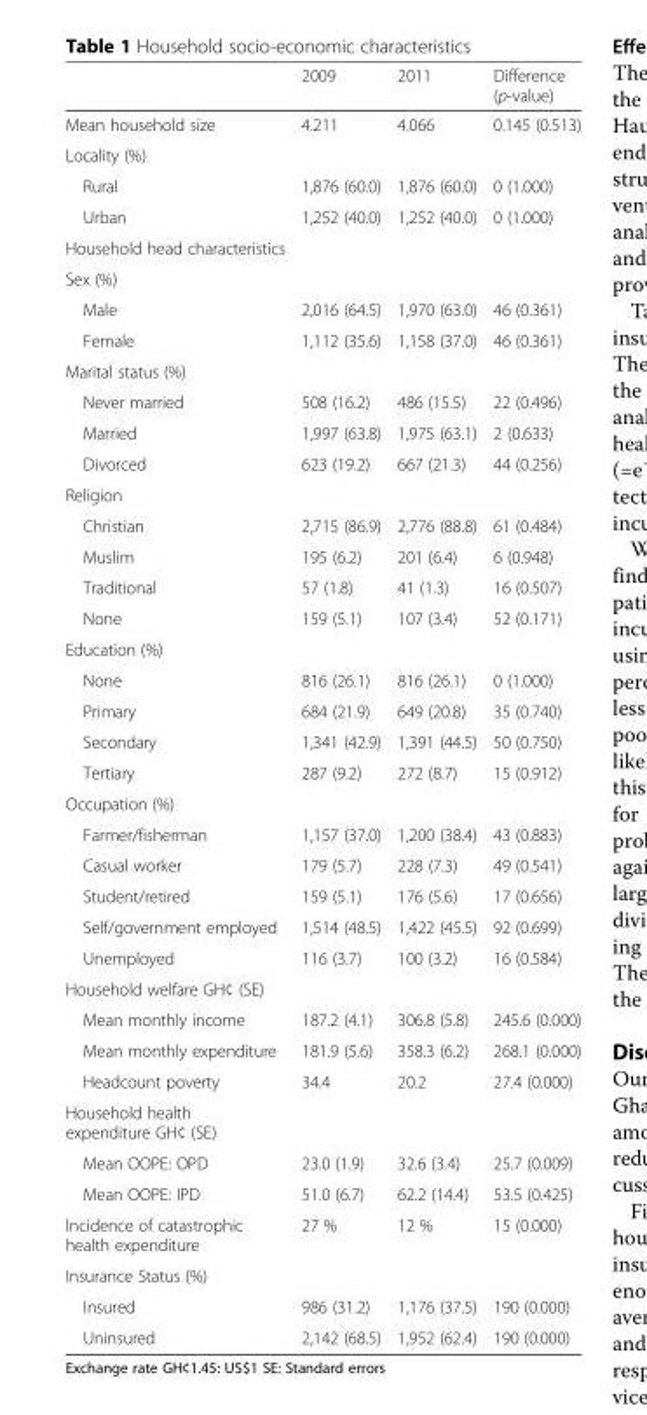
<table><thead><tr><td></td><td>2009</td><td>2011</td><td>Difference (p-value)</td></tr></thead><tbody><tr><td>Mean household size</td><td>4.211</td><td>4.066</td><td>0.145 (0.513)</td></tr><tr><td colspan="4">Locality (%)</td></tr><tr><td>Rural</td><td>1,876 (60.0)</td><td>1,876 (60.0)</td><td>0 (1.000)</td></tr><tr><td>Urban</td><td>1,252 (40.0)</td><td>1,252 (40.0)</td><td>0 (1.000)</td></tr><tr><td colspan="4">Household head characteristics</td></tr><tr><td colspan="4">Sex (%)</td></tr><tr><td>Male</td><td>2,016 (64.5)</td><td>1,970 (63.0)</td><td>46 (0.361)</td></tr><tr><td>Female</td><td>1,112 (35.6)</td><td>1,158 (37.0)</td><td>46 (0.361)</td></tr><tr><td colspan="4">Marital status (%)</td></tr><tr><td>Never married</td><td>508 (16.2)</td><td>486 (15.5)</td><td>22 (0.496)</td></tr><tr><td>Married</td><td>1,997 (63.8)</td><td>1,975 (63.1)</td><td>2 (0.633)</td></tr><tr><td>Divorced</td><td>623 (19.2)</td><td>667 (21.3)</td><td>44 (0.256)</td></tr><tr><td colspan="4">Religion</td></tr><tr><td>Christian</td><td>2,715 (86.9)</td><td>2,776 (88.8)</td><td>61 (0.484)</td></tr><tr><td>Muslim</td><td>195 (6.2)</td><td>201 (6.4)</td><td>6 (0.948)</td></tr><tr><td>Traditional</td><td>57 (1.8)</td><td>41 (1.3)</td><td>16 (0.507)</td></tr><tr><td>None</td><td>159 (5.1)</td><td>107 (3.4)</td><td>52 (0.171)</td></tr><tr><td colspan="4">Education (%)</td></tr><tr><td>None</td><td>816 (26.1)</td><td>816 (26.1)</td><td>0 (1.000)</td></tr><tr><td>Primary</td><td>684 (21.9)</td><td>649 (20.8)</td><td>35 (0.740)</td></tr><tr><td>Secondary</td><td>1,341 (42.9)</td><td>1,391 (44.5)</td><td>50 (0.750)</td></tr><tr><td>Tertiary</td><td>287 (9.2)</td><td>272 (8.7)</td><td>15 (0.912)</td></tr><tr><td colspan="4">Occupation (%)</td></tr><tr><td>Farmer/fisherman</td><td>1,157 (37.0)</td><td>1,200 (38.4)</td><td>43 (0.883)</td></tr><tr><td>Casual worker</td><td>179 (5.7)</td><td>228 (7.3)</td><td>49 (0.541)</td></tr><tr><td>Student/retired</td><td>159 (5.1)</td><td>176 (5.6)</td><td>17 (0.656)</td></tr><tr><td>Self/government employed</td><td>1,514 (48.5)</td><td>1,422 (45.5)</td><td>92 (0.699)</td></tr><tr><td>Unemployed</td><td>116 (3.7)</td><td>100 (3.2)</td><td>16 (0.584)</td></tr><tr><td colspan="4">Household welfare GH¢ (SE)</td></tr><tr><td>Mean monthly income</td><td>187.2 (4.1)</td><td>306.8 (5.8)</td><td>245.6 (0.000)</td></tr><tr><td>Mean monthly expenditure</td><td>181.9 (5.6)</td><td>358.3 (6.2)</td><td>268.1 (0.000)</td></tr><tr><td>Headcount poverty</td><td>34.4</td><td>20.2</td><td>27.4 (0.000)</td></tr><tr><td colspan="4">Household health expenditure GH¢ (SE)</td></tr><tr><td>Mean OOPE: OPD</td><td>23.0 (1.9)</td><td>32.6 (3.4)</td><td>25.7 (0.009)</td></tr><tr><td>Mean OOPE: IPD</td><td>51.0 (6.7)</td><td>62.2 (14.4)</td><td>53.5 (0.425)</td></tr><tr><td>Incidence of catastrophic health expenditure</td><td>27 %</td><td>12 %</td><td>15 (0.000)</td></tr><tr><td colspan="4">Insurance Status (%)</td></tr><tr><td>Insured</td><td>986 (31.2)</td><td>1,176 (37.5)</td><td>190 (0.000)</td></tr><tr><td>Uninsured</td><td>2,142 (68.5)</td><td>1,952 (62.4)</td><td>190 (0.000)</td></tr></tbody></table>